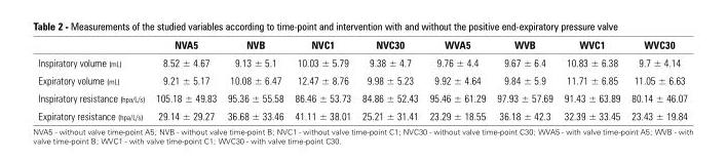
<table><thead><tr><td></td><td>NVA5</td><td>NVB</td><td>NVC1</td><td>NVC30</td><td>WVA5</td><td>WVB</td><td>WVC1</td><td>WVC30</td></tr></thead><tbody><tr><td>Inspiratory volume (mL)</td><td>8.52 ± 4.67</td><td>9.13 ± 5.1</td><td>10.03 ± 5.79</td><td>9.38 ± 4.7</td><td>9.76 ± 4.4</td><td>9.67 ± 6.4</td><td>10.83 ± 6.38</td><td>9.7 ± 4.14</td></tr><tr><td>Expiratory volume (mL)</td><td>9.21 ± 5.17</td><td>10.08 ± 6.47</td><td>12.47 ± 8.76</td><td>9.98 ± 5.23</td><td>9.92 ± 4.64</td><td>9.84 ± 5.9</td><td>11.71 ± 6.85</td><td>11.05 ± 6.63</td></tr><tr><td>Inspiratory resistance (hpa/L/s)</td><td>105.18 ± 49.83</td><td>95.36 ± 55.58</td><td>86.46 ± 53.73</td><td>84.86 ± 52.43</td><td>95.46 ± 61.29</td><td>97.93 ± 57.69</td><td>91.43 ± 63.89</td><td>80.14 ± 46.07</td></tr><tr><td>Expiratory resistance (hpa/L/s)</td><td>29.14 ± 29.27</td><td>36.68 ± 33.46</td><td>41.11 ± 38.01</td><td>25.21 ± 31.41</td><td>23.29 ± 18.55</td><td>36.18 ± 42.3</td><td>32.39 ± 33.45</td><td>23.43 ± 19.84</td></tr></tbody></table>